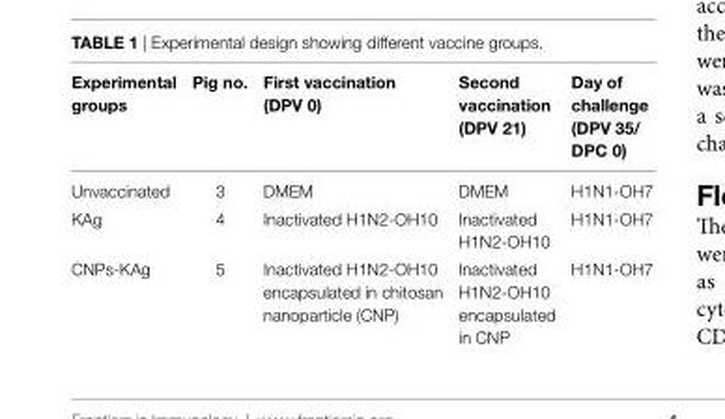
<table><thead><tr><td>experimental groups</td><td>Pig no.</td><td>First vaccination (DPV 0)</td><td>second vaccination (DPV 21)</td><td>Day of challenge (DPV 35/ DPc 0)</td></tr></thead><tbody><tr><td>Unvaccinated</td><td>3</td><td>DMEM</td><td>DMEM</td><td>H1N1-OH7</td></tr><tr><td>KAg</td><td>4</td><td>Inactivated H1N2-OH10</td><td>Inactivated H1N2-OH10</td><td>H1N1-OH7</td></tr><tr><td>CNPs-KAg</td><td>5</td><td>Inactivated H1N2-OH10 encapsulated in chitosan nanoparticle (CNP)</td><td>Inactivated H1N2-OH10 encapsulated in CNP</td><td>H1N1-OH7</td></tr></tbody></table>